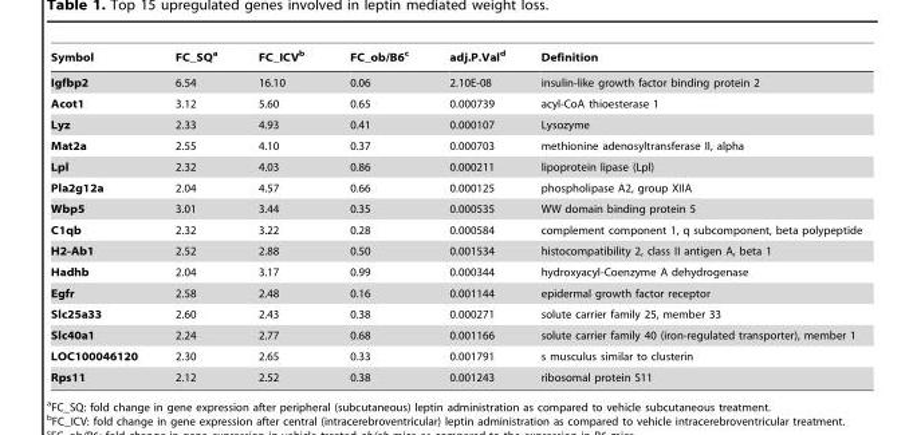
<table><thead><tr><td>Symbol</td><td>FC_SQ<sup>a</sup></td><td>FC_ICV<sup>b</sup></td><td>FC_ob/B6<sup>c</sup></td><td>adj.P.Val<sup>d</sup></td><td>Definition</td></tr></thead><tbody><tr><td>Igfbp2</td><td>6.54</td><td>16.10</td><td>0.06</td><td>2.10E-08</td><td>insulin-like growth factor binding protein 2</td></tr><tr><td>Acot1</td><td>3.12</td><td>5.60</td><td>0.65</td><td>0.000739</td><td>acyl-CoA thioesterase 1</td></tr><tr><td>Lyz</td><td>2.33</td><td>4.93</td><td>0.41</td><td>0.000107</td><td>Lysozyme</td></tr><tr><td>Mat2a</td><td>2.55</td><td>4.10</td><td>0.37</td><td>0.000703</td><td>methionine adenosyltransferase II, alpha</td></tr><tr><td>Lpl</td><td>2.32</td><td>4.03</td><td>0.86</td><td>0.000211</td><td>lipoprotein lipase (Lpl)</td></tr><tr><td>Pla2g12a</td><td>2.04</td><td>4.57</td><td>0.66</td><td>0.000125</td><td>phospholipase A2, group XIIA</td></tr><tr><td>Wbp5</td><td>3.01</td><td>3.44</td><td>0.35</td><td>0.000535</td><td>WW domain binding protein 5</td></tr><tr><td>C1qb</td><td>2.32</td><td>3.22</td><td>0.28</td><td>0.000584</td><td>complement component 1, q subcomponent, beta polypeptide</td></tr><tr><td>H2-Ab1</td><td>2.52</td><td>2.88</td><td>0.50</td><td>0.001534</td><td>histocompatibility 2, class II antigen A, beta 1</td></tr><tr><td>Hadhb</td><td>2.04</td><td>3.17</td><td>0.99</td><td>0.000344</td><td>hydroxyacyl-Coenzyme A dehydrogenase</td></tr><tr><td>Egfr</td><td>2.58</td><td>2.48</td><td>0.16</td><td>0.001144</td><td>epidermal growth factor receptor</td></tr><tr><td>Slc25a33</td><td>2.60</td><td>2.43</td><td>0.38</td><td>0.000271</td><td>solute carrier family 25, member 33</td></tr><tr><td>Slc40a1</td><td>2.24</td><td>2.77</td><td>0.68</td><td>0.001166</td><td>solute carrier family 40 (iron-regulated transporter), member 1</td></tr><tr><td>LOC100046120</td><td>2.30</td><td>2.65</td><td>0.33</td><td>0.001791</td><td>s musculus similar to clusterin</td></tr><tr><td>Rps11</td><td>2.12</td><td>2.52</td><td>0.38</td><td>0.001243</td><td>ribosomal protein S11</td></tr></tbody></table>